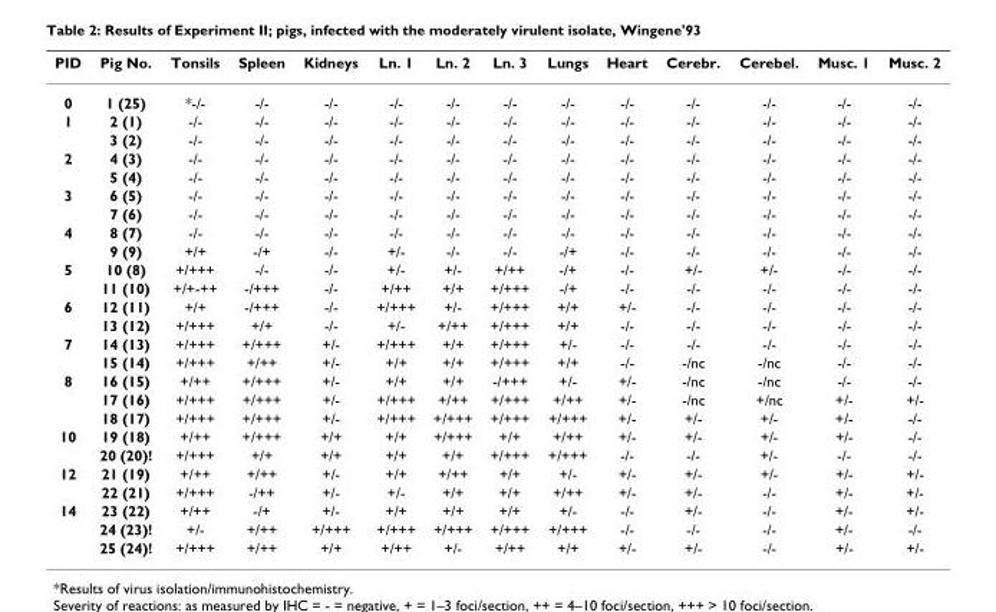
<table><thead><tr><td>PID</td><td>Pig No.</td><td>Tonsils</td><td>Spleen</td><td>Kidneys</td><td>Ln. 1</td><td>Ln. 2</td><td>Ln. 3</td><td>Lungs</td><td>Heart</td><td>Cerebr.</td><td>Cerebel.</td><td>Musc. 1</td><td>Musc. 2</td></tr></thead><tbody><tr><td>0</td><td>1 (25)</td><td>*-/-</td><td>-/-</td><td>-/-</td><td>-/-</td><td>-/-</td><td>-/-</td><td>-/-</td><td>-/-</td><td>-/-</td><td>-/-</td><td>-/-</td><td>-/-</td></tr><tr><td rowspan="2">1</td><td>2 (1)</td><td>-/-</td><td>-/-</td><td>-/-</td><td>-/-</td><td>-/-</td><td>-/-</td><td>-/-</td><td>-/-</td><td>-/-</td><td>-/-</td><td>-/-</td><td>-/-</td></tr><tr><td>3 (2)</td><td>-/-</td><td>-/-</td><td>-/-</td><td>-/-</td><td>-/-</td><td>-/-</td><td>-/-</td><td>-/-</td><td>-/-</td><td>-/-</td><td>-/-</td><td>-/-</td></tr><tr><td rowspan="2">2</td><td>4 (3)</td><td>-/-</td><td>-/-</td><td>-/-</td><td>-/-</td><td>-/-</td><td>-/-</td><td>-/-</td><td>-/-</td><td>-/-</td><td>-/-</td><td>-/-</td><td>-/-</td></tr><tr><td>5 (4)</td><td>-/-</td><td>-/-</td><td>-/-</td><td>-/-</td><td>-/-</td><td>-/-</td><td>-/-</td><td>-/-</td><td>-/-</td><td>-/-</td><td>-/-</td><td>-/-</td></tr><tr><td rowspan="2">3</td><td>6 (5)</td><td>-/-</td><td>-/-</td><td>-/-</td><td>-/-</td><td>-/-</td><td>-/-</td><td>-/-</td><td>-/-</td><td>-/-</td><td>-/-</td><td>-/-</td><td>-/-</td></tr><tr><td>7 (6)</td><td>-/-</td><td>-/-</td><td>-/-</td><td>-/-</td><td>-/-</td><td>-/-</td><td>-/-</td><td>-/-</td><td>-/-</td><td>-/-</td><td>-/-</td><td>-/-</td></tr><tr><td rowspan="2">4</td><td>8 (7)</td><td>-/-</td><td>-/-</td><td>-/-</td><td>-/-</td><td>-/-</td><td>-/-</td><td>-/-</td><td>-/-</td><td>-/-</td><td>-/-</td><td>-/-</td><td>-/-</td></tr><tr><td>9 (9)</td><td>+/+</td><td>-/+</td><td>-/-</td><td>+/-</td><td>-/-</td><td>-/-</td><td>-/+</td><td>-/-</td><td>-/-</td><td>-/-</td><td>-/-</td><td>-/-</td></tr><tr><td rowspan="2">5</td><td>10 (8)</td><td>+/+++</td><td>-/-</td><td>-/-</td><td>+/-</td><td>+/-</td><td>+/++</td><td>-/+</td><td>-/-</td><td>+/-</td><td>+/-</td><td>-/-</td><td>-/-</td></tr><tr><td>11 (10)</td><td>+/+-++</td><td>-/+++</td><td>-/-</td><td>+/++</td><td>+/+</td><td>+/+++</td><td>-/+</td><td>-/-</td><td>-/-</td><td>-/-</td><td>-/-</td><td>-/-</td></tr><tr><td rowspan="2">6</td><td>12 (11)</td><td>+/+</td><td>-/+++</td><td>-/-</td><td>+/+++</td><td>+/-</td><td>+/+++</td><td>+/+</td><td>+/-</td><td>-/-</td><td>-/-</td><td>-/-</td><td>-/-</td></tr><tr><td>13 (12)</td><td>+/+++</td><td>+/+</td><td>-/-</td><td>+/-</td><td>+/++</td><td>+/+++</td><td>+/+</td><td>-/-</td><td>-/-</td><td>-/-</td><td>-/-</td><td>-/-</td></tr><tr><td rowspan="2">7</td><td>14 (13)</td><td>+/+++</td><td>+/+++</td><td>+/-</td><td>+/+++</td><td>+/+</td><td>+/+++</td><td>+/-</td><td>-/-</td><td>-/-</td><td>-/-</td><td>-/-</td><td>-/-</td></tr><tr><td>15 (14)</td><td>+/+++</td><td>+/++</td><td>+/-</td><td>+/+</td><td>+/+</td><td>+/+++</td><td>+/+</td><td>-/-</td><td>-/nc</td><td>-/nc</td><td>-/-</td><td>-/-</td></tr><tr><td rowspan="3">8</td><td>16 (15)</td><td>+/++</td><td>+/+++</td><td>+/-</td><td>+/+</td><td>+/+</td><td>-/+++</td><td>+/-</td><td>+/-</td><td>-/nc</td><td>-/nc</td><td>-/-</td><td>-/-</td></tr><tr><td>17 (16)</td><td>+/+++</td><td>+/+++</td><td>+/-</td><td>+/+++</td><td>+/++</td><td>+/+++</td><td>+/++</td><td>+/-</td><td>-/nc</td><td>+/nc</td><td>+/-</td><td>+/-</td></tr><tr><td>18 (17)</td><td>+/+++</td><td>+/+++</td><td>+/-</td><td>+/+++</td><td>+/+++</td><td>+/+++</td><td>+/+++</td><td>+/-</td><td>+/-</td><td>+/-</td><td>+/-</td><td>-/-</td></tr><tr><td rowspan="2">10</td><td>19 (18)</td><td>+/++</td><td>+/+++</td><td>+/+</td><td>+/+</td><td>+/+++</td><td>+/+</td><td>+/++</td><td>+/-</td><td>+/-</td><td>+/-</td><td>+/-</td><td>-/-</td></tr><tr><td>20 (20)!</td><td>+/+++</td><td>+/+</td><td>+/+</td><td>+/+</td><td>+/+</td><td>+/+++</td><td>+/+++</td><td>-/-</td><td>-/-</td><td>+/-</td><td>-/-</td><td>-/-</td></tr><tr><td rowspan="2">12</td><td>21 (19)</td><td>+/++</td><td>+/++</td><td>+/-</td><td>+/+</td><td>+/++</td><td>+/+</td><td>+/-</td><td>+/-</td><td>+/-</td><td>+/-</td><td>+/-</td><td>+/-</td></tr><tr><td>22 (21)</td><td>+/+++</td><td>-/++</td><td>+/-</td><td>+/-</td><td>+/+</td><td>+/+</td><td>+/++</td><td>+/-</td><td>+/-</td><td>-/-</td><td>+/-</td><td>+/-</td></tr><tr><td rowspan="3">14</td><td>23 (22)</td><td>+/++</td><td>-/+</td><td>+/-</td><td>+/+</td><td>+/+</td><td>+/+</td><td>+/-</td><td>-/-</td><td>+/-</td><td>-/-</td><td>+/-</td><td>+/-</td></tr><tr><td>24 (23)!</td><td>+/-</td><td>+/++</td><td>+/+++</td><td>+/+++</td><td>+/+++</td><td>+/+++</td><td>+/+++</td><td>-/-</td><td>-/-</td><td>-/-</td><td>+/-</td><td>-/-</td></tr><tr><td>25 (24)!</td><td>+/+++</td><td>+/++</td><td>+/+</td><td>+/++</td><td>+/-</td><td>+/++</td><td>+/+</td><td>+/-</td><td>+/-</td><td>-/-</td><td>+/-</td><td>+/-</td></tr></tbody></table>